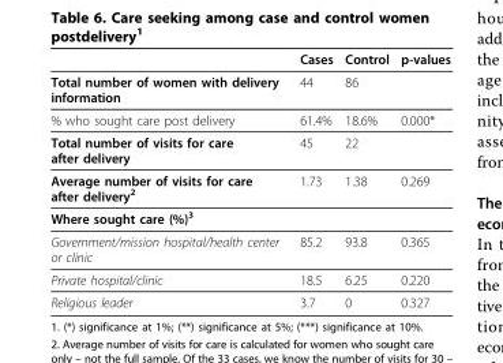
<table><thead><tr><td></td><td>Cases</td><td>Control</td><td>p-values</td></tr></thead><tbody><tr><td>Total number of women with delivery information</td><td>44</td><td>86</td><td></td></tr><tr><td>% who sought care post delivery</td><td>61.4%</td><td>18.6%</td><td>0.000*</td></tr><tr><td>Total number of visits for care after delivery</td><td>45</td><td>22</td><td></td></tr><tr><td>Average number of visits for care after delivery<sup>2</sup></td><td>1.73</td><td>1.38</td><td>0.269</td></tr><tr><td colspan="4">Where sought care (%)<sup>3</sup></td></tr><tr><td>Government/mission hospital/health center or clinic</td><td>85.2</td><td>93.8</td><td>0.365</td></tr><tr><td>Private hospital/clinic</td><td>18.5</td><td>6.25</td><td>0.220</td></tr><tr><td>Religious leader</td><td>3.7</td><td>0</td><td>0.327</td></tr></tbody></table>